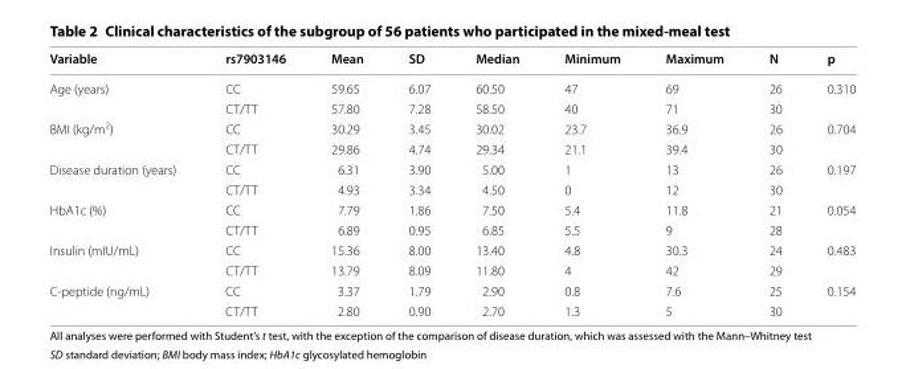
<table><thead><tr><td>Variable</td><td>rs7903146</td><td>Mean</td><td>SD</td><td>Median</td><td>Minimum</td><td>Maximum</td><td>N</td><td>p</td></tr></thead><tbody><tr><td rowspan="2">Age (years)</td><td>CC</td><td>59.65</td><td>6.07</td><td>60.50</td><td>47</td><td>69</td><td>26</td><td rowspan="2">0.310</td></tr><tr><td>CT/TT</td><td>57.80</td><td>7.28</td><td>58.50</td><td>40</td><td>71</td><td>30</td></tr><tr><td rowspan="2">BMI (kg/m<sup>2</sup>)</td><td>CC</td><td>30.29</td><td>3.45</td><td>30.02</td><td>23.7</td><td>36.9</td><td>26</td><td rowspan="2">0.704</td></tr><tr><td>CT/TT</td><td>29.86</td><td>4.74</td><td>29.34</td><td>21.1</td><td>39.4</td><td>30</td></tr><tr><td rowspan="2">Disease duration (years)</td><td>CC</td><td>6.31</td><td>3.90</td><td>5.00</td><td>1</td><td>13</td><td>26</td><td rowspan="2">0.197</td></tr><tr><td>CT/TT</td><td>4.93</td><td>3.34</td><td>4.50</td><td>0</td><td>12</td><td>30</td></tr><tr><td rowspan="2">HbA1c (%)</td><td>CC</td><td>7.79</td><td>1.86</td><td>7.50</td><td>5.4</td><td>11.8</td><td>21</td><td rowspan="2">0.054</td></tr><tr><td>CT/TT</td><td>6.89</td><td>0.95</td><td>6.85</td><td>5.5</td><td>9</td><td>28</td></tr><tr><td rowspan="2">Insulin (mIU/mL)</td><td>CC</td><td>15.36</td><td>8.00</td><td>13.40</td><td>4.8</td><td>30.3</td><td>24</td><td rowspan="2">0.483</td></tr><tr><td>CT/TT</td><td>13.79</td><td>8.09</td><td>11.80</td><td>4</td><td>42</td><td>29</td></tr><tr><td rowspan="2">C‑peptide (ng/mL)</td><td>CC</td><td>3.37</td><td>1.79</td><td>2.90</td><td>0.8</td><td>7.6</td><td>25</td><td rowspan="2">0.154</td></tr><tr><td>CT/TT</td><td>2.80</td><td>0.90</td><td>2.70</td><td>1.3</td><td>5</td><td>30</td></tr></tbody></table>